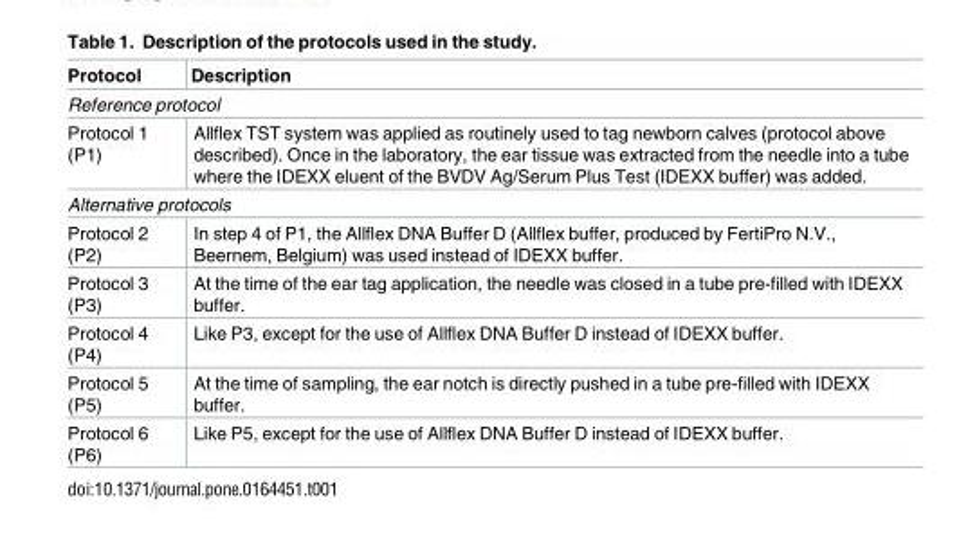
<table><thead><tr><td>Protocol</td><td>Description</td></tr></thead><tbody><tr><td colspan="2">Reference protocol</td></tr><tr><td>Protocol 1 (P1)</td><td>Allflex TST system was applied as routinely used to tag newborn calves (protocol above described). Once in the laboratory, the ear tissue was extracted from the needle into a tube where the IDEXX eluent of the BVDV Ag/Serum Plus Test (IDEXX buffer) was added.</td></tr><tr><td colspan="2">Alternative protocols</td></tr><tr><td>Protocol 2 (P2)</td><td>In step 4 of P1, the Allflex DNA Buffer D (Allflex buffer, produced by FertiPro N.V., Beernem, Belgium) was used instead of IDEXX buffer.</td></tr><tr><td>Protocol 3 (P3)</td><td>At the time of the ear tag application, the needle was closed in a tube pre-filled with IDEXX buffer.</td></tr><tr><td>Protocol 4 (P4)</td><td>Like P3, except for the use of Allflex DNA Buffer D instead of IDEXX buffer.</td></tr><tr><td>Protocol 5 (P5)</td><td>At the time of sampling, the ear notch is directly pushed in a tube pre-filled with IDEXX buffer.</td></tr><tr><td>Protocol 6 (P6)</td><td>Like P5, except for the use of Allflex DNA Buffer D instead of IDEXX buffer.</td></tr></tbody></table>